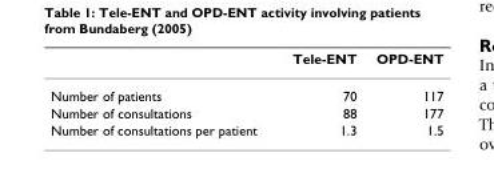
<table><thead><tr><td></td><td>Tele-ENT</td><td>OPD-ENT</td></tr></thead><tbody><tr><td>Number of patients</td><td>70</td><td>117</td></tr><tr><td>Number of consultations</td><td>88</td><td>177</td></tr><tr><td>Number of consultations per patient</td><td>1.3</td><td>1.5</td></tr></tbody></table>